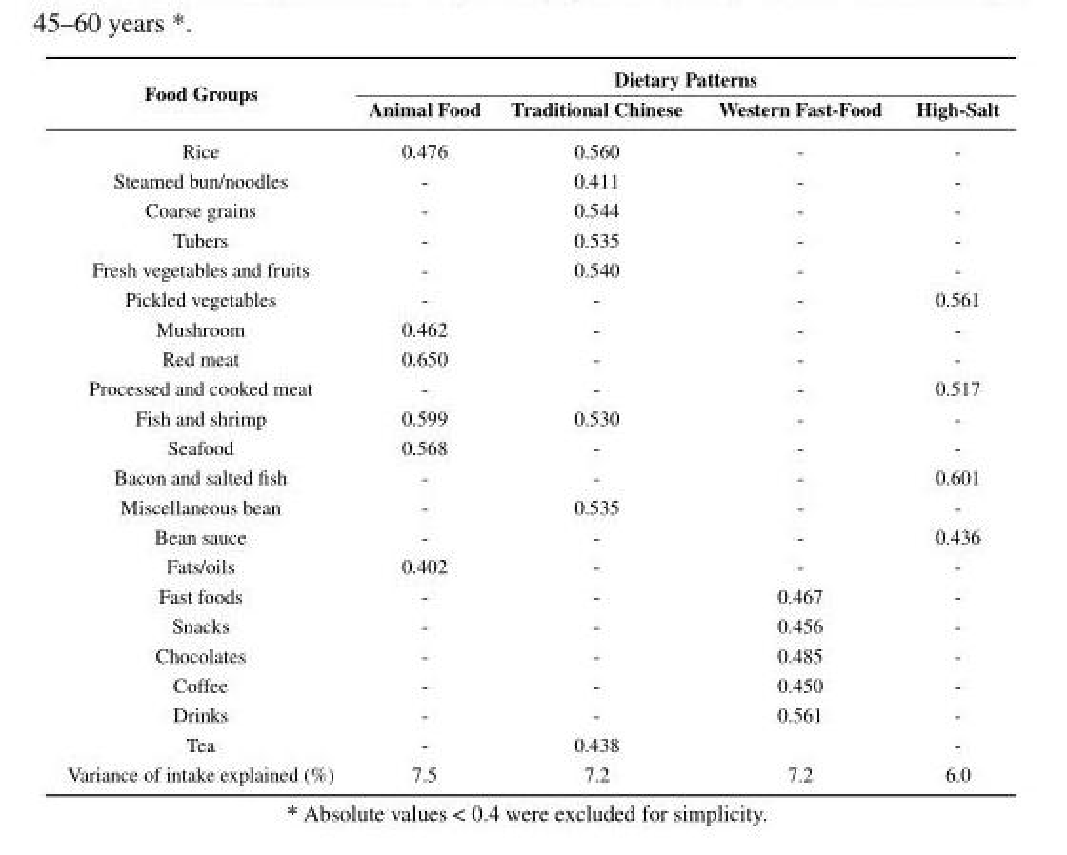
<table><thead><tr><td rowspan="2">Food Groups</td><td colspan="4">Dietary Patterns</td></tr><tr><td>Animal Food</td><td>Traditional Chinese</td><td>Western Fast-Food</td><td>High-Salt</td></tr></thead><tbody><tr><td>Rice</td><td>0.476</td><td>0.560</td><td>-</td><td>-</td></tr><tr><td>Steamed bun/noodles</td><td>-</td><td>0.411</td><td>-</td><td>-</td></tr><tr><td>Coarse grains</td><td>-</td><td>0.544</td><td>-</td><td>-</td></tr><tr><td>Tubers</td><td>-</td><td>0.535</td><td>-</td><td>-</td></tr><tr><td>Fresh vegetables and fruits</td><td>-</td><td>0.540</td><td>-</td><td>-</td></tr><tr><td>Pickled vegetables</td><td>-</td><td>-</td><td>-</td><td>0.561</td></tr><tr><td>Mushroom</td><td>0.462</td><td>-</td><td>-</td><td>-</td></tr><tr><td>Red meat</td><td>0.650</td><td>-</td><td>-</td><td>-</td></tr><tr><td>Processed and cooked meat</td><td>-</td><td>-</td><td>-</td><td>0.517</td></tr><tr><td>Fish and shrimp</td><td>0.599</td><td>0.530</td><td>-</td><td>-</td></tr><tr><td>Seafood</td><td>0.568</td><td>-</td><td>-</td><td>-</td></tr><tr><td>Bacon and salted fish</td><td>-</td><td>-</td><td>-</td><td>0.601</td></tr><tr><td>Miscellaneous bean</td><td>-</td><td>0.535</td><td>-</td><td>-</td></tr><tr><td>Bean sauce</td><td>-</td><td>-</td><td>-</td><td>0.436</td></tr><tr><td>Fats/oils</td><td>0.402</td><td>-</td><td>-</td><td>-</td></tr><tr><td>Fast foods</td><td>-</td><td>-</td><td>0.467</td><td>-</td></tr><tr><td>Snacks</td><td>-</td><td>-</td><td>0.456</td><td>-</td></tr><tr><td>Chocolates</td><td>-</td><td>-</td><td>0.485</td><td>-</td></tr><tr><td>Coffee</td><td>-</td><td>-</td><td>0.450</td><td>-</td></tr><tr><td>Drinks</td><td>-</td><td>-</td><td>0.561</td><td>-</td></tr><tr><td>Tea</td><td>-</td><td>0.438</td><td></td><td>-</td></tr><tr><td>Variance of intake explained (%)</td><td>7.5</td><td>7.2</td><td>7.2</td><td>6.0</td></tr></tbody></table>